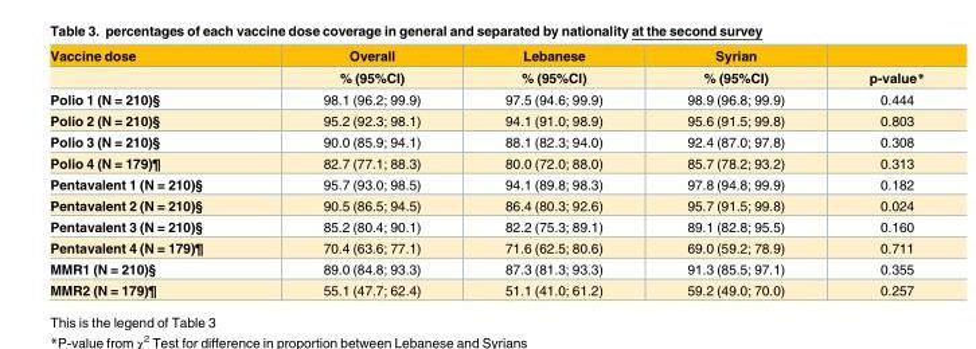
<table><thead><tr><td rowspan="2">Vaccine dose</td><td rowspan="2">Overall % (95%CI)</td><td rowspan="2">Lebanese % (95%CI)</td><td rowspan="2">Syrian % (95%CI)</td><td rowspan="2">p-value*</td></tr><tr></tr></thead><tbody><tr><td>Polio 1 (N = 210)§</td><td>98.1 (96.2; 99.9)</td><td>97.5 (94.6; 99.9)</td><td>98.9 (96.8; 99.9)</td><td>0.444</td></tr><tr><td>Polio 2 (N = 210)§</td><td>95.2 (92.3; 98.1)</td><td>94.1 (91.0; 98.9)</td><td>95.6 (91.5; 99.8)</td><td>0.803</td></tr><tr><td>Polio 3 (N = 210)§</td><td>90.0 (85.9; 94.1)</td><td>88.1 (82.3; 94.0)</td><td>92.4 (87.0; 97.8)</td><td>0.308</td></tr><tr><td>Polio 4 (N = 179)¶</td><td>82.7 (77.1; 88.3)</td><td>80.0 (72.0; 88.0)</td><td>85.7 (78.2; 93.2)</td><td>0.313</td></tr><tr><td>Pentavalent 1 (N = 210)§</td><td>95.7 (93.0; 98.5)</td><td>94.1 (89.8; 98.3)</td><td>97.8 (94.8; 99.9)</td><td>0.182</td></tr><tr><td>Pentavalent 2 (N = 210)§</td><td>90.5 (86.5; 94.5)</td><td>86.4 (80.3; 92.6)</td><td>95.7 (91.5; 99.8)</td><td>0.024</td></tr><tr><td>Pentavalent 3 (N = 210)§</td><td>85.2 (80.4; 90.1)</td><td>82.2 (75.3; 89.1)</td><td>89.1 (82.8; 95.5)</td><td>0.160</td></tr><tr><td>Pentavalent 4 (N = 179)¶</td><td>70.4 (63.6; 77.1)</td><td>71.6 (62.5; 80.6)</td><td>69.0 (59.2; 78.9)</td><td>0.711</td></tr><tr><td>MMR1 (N = 210)§</td><td>89.0 (84.8; 93.3)</td><td>87.3 (81.3; 93.3)</td><td>91.3 (85.5; 97.1)</td><td>0.355</td></tr><tr><td>MMR2 (N = 179)¶</td><td>55.1 (47.7; 62.4)</td><td>51.1 (41.0; 61.2)</td><td>59.2 (49.0; 70.0)</td><td>0.257</td></tr></tbody></table>